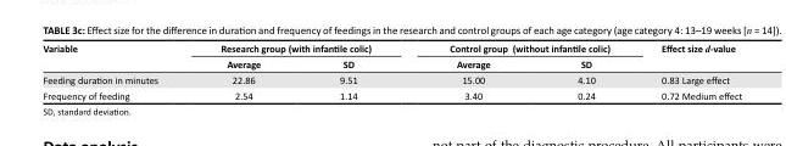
<table><thead><tr><td rowspan="2">Variable</td><td colspan="2">Research group (with infantile colic)</td><td colspan="2">Control group (without infantile colic)</td><td rowspan="2">Effect size d-value</td></tr><tr><td>Average</td><td>SD</td><td>Average</td><td>SD</td></tr></thead><tbody><tr><td>Feeding duration in minutes</td><td>22.86</td><td>9.51</td><td>15.00</td><td>4.10</td><td>0.83 Large effect</td></tr><tr><td>Frequency of feeding</td><td>2.54</td><td>1.14</td><td>3.40</td><td>0.24</td><td>0.72 Medium effect</td></tr></tbody></table>